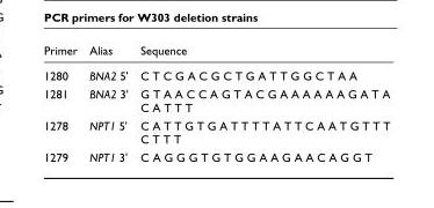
<table><thead><tr><td>Primer</td><td>Alias</td><td>Sequence</td></tr></thead><tbody><tr><td>1280</td><td>BNA2 5&#x27;</td><td>C T C G A C G C T G A T T G G C T A A</td></tr><tr><td>1281</td><td>BNA2 3&#x27;</td><td>G T A A C C A G T A C G A A A A A A G A T A C A T T T</td></tr><tr><td>1278</td><td>NPT1 5&#x27;</td><td>C A T T G T G A T T T T A T T C A A T G T T T C T T T</td></tr><tr><td>1279</td><td>NPT1 3&#x27;</td><td>C A G G G T G T G G A A G A A C A G G T</td></tr></tbody></table>